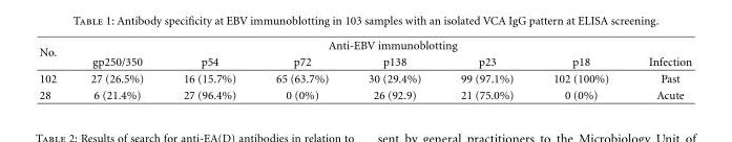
<table><thead><tr><td rowspan="2">No.</td><td colspan="7">Anti-EBV immunoblotting</td></tr><tr><td>gp250/350</td><td>p54</td><td>p72</td><td>p138</td><td>p23</td><td>p18</td><td>Infection</td></tr></thead><tbody><tr><td>102</td><td>27 (26.5%)</td><td>16 (15.7%)</td><td>65 (63.7%)</td><td>30 (29.4%)</td><td>99 (97.1%)</td><td>102 (100%)</td><td>Past</td></tr><tr><td>28</td><td>6 (21.4%)</td><td>27 (96.4%)</td><td>0 (0%)</td><td>26 (92.9)</td><td>21 (75.0%)</td><td>0 (0%)</td><td>Acute</td></tr></tbody></table>